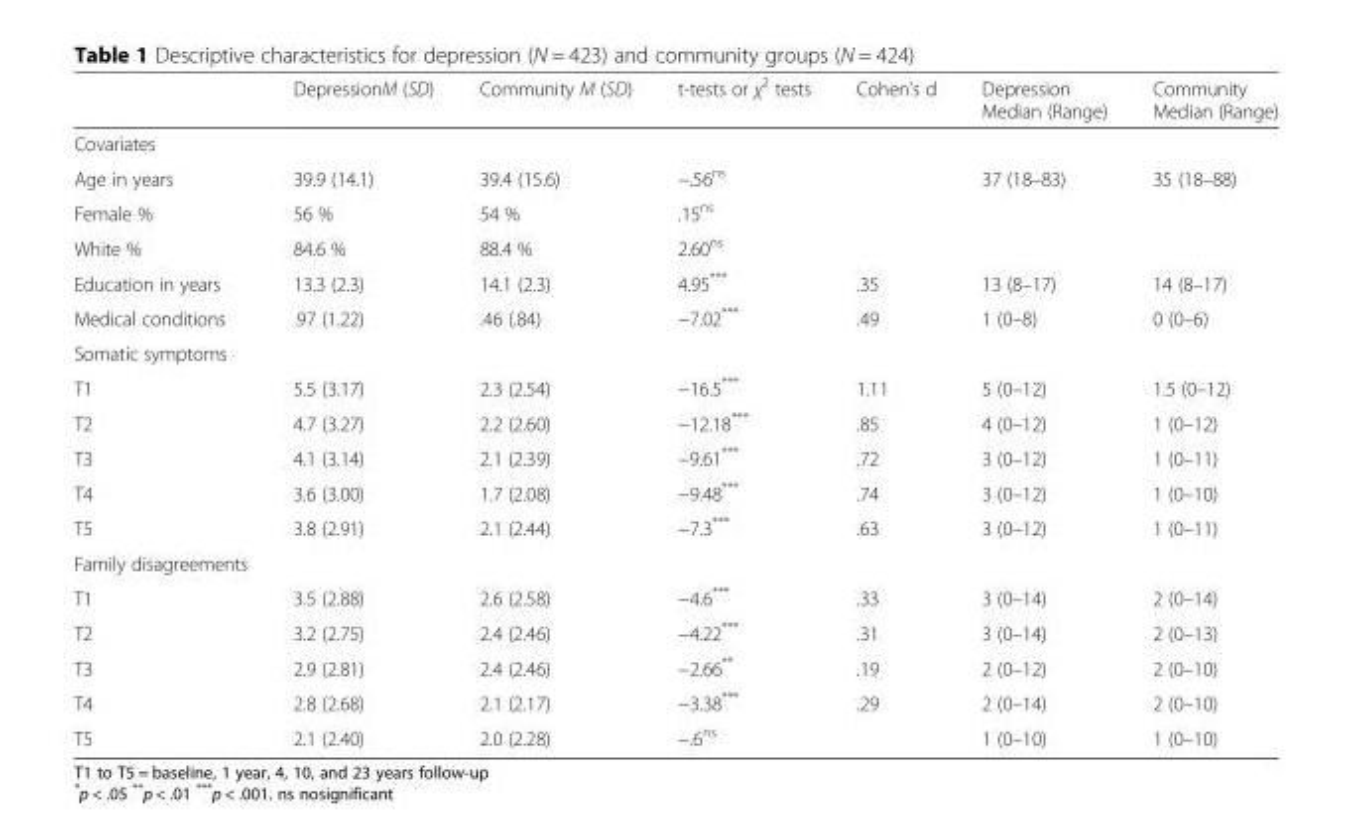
<table><thead><tr><td></td><td>DepressionM (SD)</td><td>Community M (SD)</td><td>t-tests or χ<sup>2</sup> tests</td><td>Cohen’s d</td><td>Depression Median (Range)</td><td>Community Median (Range)</td></tr></thead><tbody><tr><td colspan="7">Covariates</td></tr><tr><td>Age in years</td><td>39.9 (14.1)</td><td>39.4 (15.6)</td><td>−.56<sup>ns</sup></td><td></td><td>37 (18–83)</td><td>35 (18–88)</td></tr><tr><td>Female %</td><td>56 %</td><td>54 %</td><td>.15<sup>ns</sup></td><td></td><td></td><td></td></tr><tr><td>White %</td><td>84.6 %</td><td>88.4 %</td><td>2.60<sup>ns</sup></td><td></td><td></td><td></td></tr><tr><td>Education in years</td><td>13.3 (2.3)</td><td>14.1 (2.3)</td><td>4.95***</td><td>.35</td><td>13 (8–17)</td><td>14 (8–17)</td></tr><tr><td>Medical conditions</td><td>.97 (1.22)</td><td>.46 (.84)</td><td>−7.02***</td><td>.49</td><td>1 (0–8)</td><td>0 (0–6)</td></tr><tr><td colspan="7">Somatic symptoms</td></tr><tr><td>T1</td><td>5.5 (3.17)</td><td>2.3 (2.54)</td><td>−16.5***</td><td>1.11</td><td>5 (0–12)</td><td>1.5 (0–12)</td></tr><tr><td>T2</td><td>4.7 (3.27)</td><td>2.2 (2.60)</td><td>−12.18***</td><td>.85</td><td>4 (0–12)</td><td>1 (0–12)</td></tr><tr><td>T3</td><td>4.1 (3.14)</td><td>2.1 (2.39)</td><td>−9.61***</td><td>.72</td><td>3 (0–12)</td><td>1 (0–11)</td></tr><tr><td>T4</td><td>3.6 (3.00)</td><td>1.7 (2.08)</td><td>−9.48***</td><td>.74</td><td>3 (0–12)</td><td>1 (0–10)</td></tr><tr><td>T5</td><td>3.8 (2.91)</td><td>2.1 (2.44)</td><td>−7.3***</td><td>.63</td><td>3 (0–12)</td><td>1 (0–11)</td></tr><tr><td colspan="7">Family disagreements</td></tr><tr><td>T1</td><td>3.5 (2.88)</td><td>2.6 (2.58)</td><td>−4.6***</td><td>.33</td><td>3 (0–14)</td><td>2 (0–14)</td></tr><tr><td>T2</td><td>3.2 (2.75)</td><td>2.4 (2.46)</td><td>−4.22***</td><td>.31</td><td>3 (0–14)</td><td>2 (0–13)</td></tr><tr><td>T3</td><td>2.9 (2.81)</td><td>2.4 (2.46)</td><td>−2.66**</td><td>.19</td><td>2 (0–12)</td><td>2 (0–10)</td></tr><tr><td>T4</td><td>2.8 (2.68)</td><td>2.1 (2.17)</td><td>−3.38***</td><td>.29</td><td>2 (0–14)</td><td>2 (0–10)</td></tr><tr><td>T5</td><td>2.1 (2.40)</td><td>2.0 (2.28)</td><td>−.6<sup>ns</sup></td><td></td><td>1 (0–10)</td><td>1 (0–10)</td></tr></tbody></table>